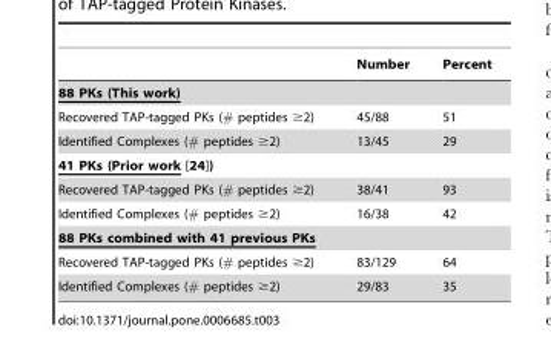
<table><thead><tr><td></td><td>Number</td><td>Percent</td></tr></thead><tbody><tr><td colspan="3">88 PKs (This work)</td></tr><tr><td>Recovered TAP-tagged PKs (# peptides ≥2)</td><td>45/88</td><td>51</td></tr><tr><td>Identified Complexes (# peptides ≥2)</td><td>13/45</td><td>29</td></tr><tr><td colspan="3">41 PKs (Prior work [24])</td></tr><tr><td>Recovered TAP-tagged PKs (# peptides ≥2)</td><td>38/41</td><td>93</td></tr><tr><td>Identified Complexes (# peptides ≥2)</td><td>16/38</td><td>42</td></tr><tr><td colspan="3">88 PKs combined with 41 previous PKs</td></tr><tr><td>Recovered TAP-tagged PKs (# peptides ≥2)</td><td>83/129</td><td>64</td></tr><tr><td>Identified Complexes (# peptides ≥2)</td><td>29/83</td><td>35</td></tr></tbody></table>